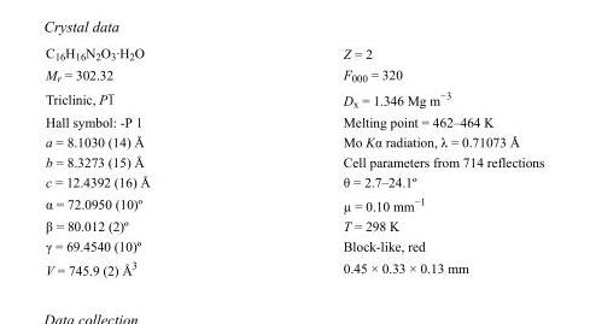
<table><tbody><tr><td>C<sub>16</sub>H<sub>16</sub>N<sub>2</sub>O<sub>3</sub>·H<sub>2</sub>O</td><td>Z = 2</td></tr><tr><td>M<sub>r</sub> = 302.32</td><td>F000 = 320</td></tr><tr><td>Triclinic, P1</td><td>D<sub>x</sub> = 1.346 Mg m<sup>−3</sup></td></tr><tr><td>Hall symbol: -P 1</td><td>Melting point = 462–464 K</td></tr><tr><td>a = 8.1030 (14) Å</td><td>Mo Kα radiation, λ = 0.71073 Å</td></tr><tr><td>b = 8.3273 (15) Å</td><td>Cell parameters from 714 reflections</td></tr><tr><td>c = 12.4392 (16) Å</td><td>θ = 2.7–24.1º</td></tr><tr><td>α = 72.0950 (10)º</td><td>µ = 0.10 mm<sup>−1</sup></td></tr><tr><td>β = 80.012 (2)º</td><td>T = 298 K</td></tr><tr><td>γ = 69.4540 (10)º</td><td>Block-like, red</td></tr><tr><td>V = 745.9 (2) Å<sup>3</sup></td><td>0.45 × 0.33 × 0.13 mm</td></tr></tbody></table>